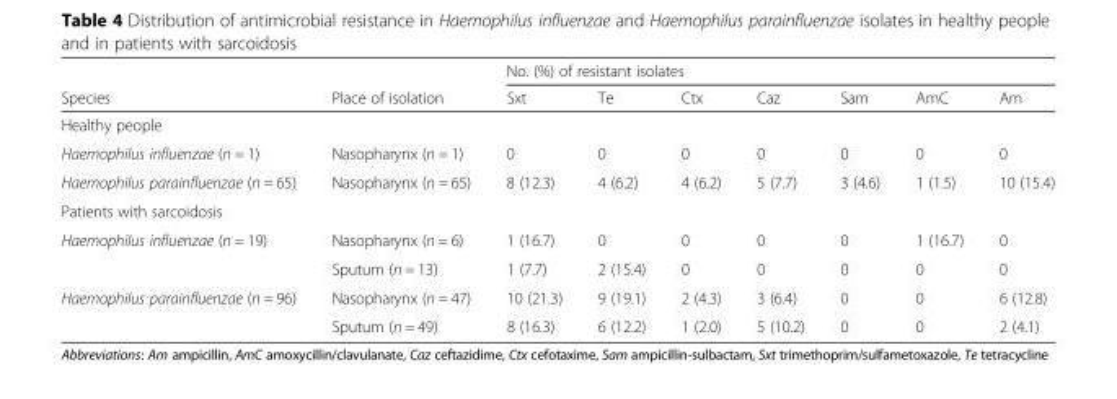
<table><thead><tr><td rowspan="2">Species</td><td rowspan="2">Place of isolation</td><td colspan="7">No. (%) of resistant isolates</td></tr><tr><td>Sxt</td><td>Te</td><td>Ctx</td><td>Caz</td><td>Sam</td><td>AmC</td><td>Am</td></tr></thead><tbody><tr><td colspan="9">Healthy people</td></tr><tr><td>Haemophilus influenzae (n = 1)</td><td>Nasopharynx (n = 1)</td><td>0</td><td>0</td><td>0</td><td>0</td><td>0</td><td>0</td><td>0</td></tr><tr><td>Haemophilus parainfluenzae (n = 65)</td><td>Nasopharynx (n = 65)</td><td>8 (12.3)</td><td>4 (6.2)</td><td>4 (6.2)</td><td>5 (7.7)</td><td>3 (4.6)</td><td>1 (1.5)</td><td>10 (15.4)</td></tr><tr><td colspan="9">Patients with sarcoidosis</td></tr><tr><td rowspan="2">Haemophilus influenzae (n = 19)</td><td>Nasopharynx (n = 6)</td><td>1 (16.7)</td><td>0</td><td>0</td><td>0</td><td>0</td><td>1 (16.7)</td><td>0</td></tr><tr><td>Sputum (n = 13)</td><td>1 (7.7)</td><td>2 (15.4)</td><td>0</td><td>0</td><td>0</td><td>0</td><td>0</td></tr><tr><td rowspan="2">Haemophilus parainfluenzae (n = 96)</td><td>Nasopharynx (n = 47)</td><td>10 (21.3)</td><td>9 (19.1)</td><td>2 (4.3)</td><td>3 (6.4)</td><td>0</td><td>0</td><td>6 (12.8)</td></tr><tr><td>Sputum (n = 49)</td><td>8 (16.3)</td><td>6 (12.2)</td><td>1 (2.0)</td><td>5 (10.2)</td><td>0</td><td>0</td><td>2 (4.1)</td></tr></tbody></table>